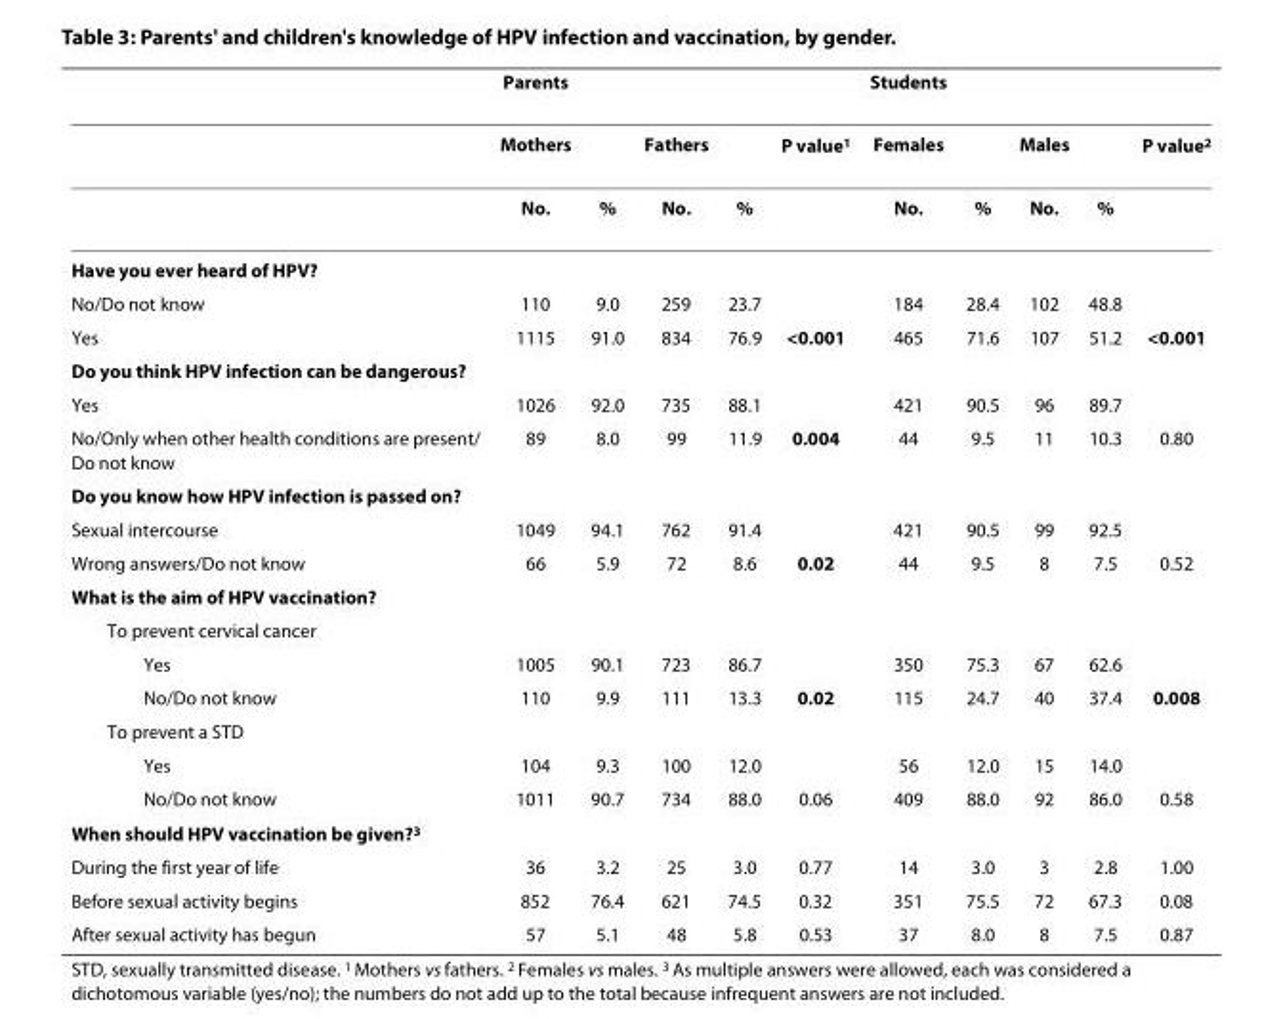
<table><thead><tr><td></td><td>Parents</td><td></td><td></td><td></td><td></td><td>Students</td><td></td><td></td><td></td><td></td></tr></thead><tbody><tr><td></td><td>Mothers</td><td></td><td>Fathers</td><td></td><td>P value<sup>1</sup></td><td>Females</td><td></td><td>Males</td><td></td><td>P value<sup>2</sup></td></tr><tr><td></td><td>No.</td><td>%</td><td>No.</td><td>%</td><td></td><td>No.</td><td>%</td><td>No.</td><td>%</td><td></td></tr><tr><td colspan="11">Have you ever heard of HPV?</td></tr><tr><td>No/Do not know</td><td>110</td><td>9.0</td><td>259</td><td>23.7</td><td></td><td>184</td><td>28.4</td><td>102</td><td>48.8</td><td></td></tr><tr><td>Yes</td><td>1115</td><td>91.0</td><td>834</td><td>76.9</td><td>&lt;0.001</td><td>465</td><td>71.6</td><td>107</td><td>51.2</td><td>&lt;0.001</td></tr><tr><td colspan="11">Do you think HPV infection can be dangerous?</td></tr><tr><td>Yes</td><td>1026</td><td>92.0</td><td>735</td><td>88.1</td><td></td><td>421</td><td>90.5</td><td>96</td><td>89.7</td><td></td></tr><tr><td>No/Only when other health conditions are present/ Do not know</td><td>89</td><td>8.0</td><td>99</td><td>11.9</td><td>0.004</td><td>44</td><td>9.5</td><td>11</td><td>10.3</td><td>0.80</td></tr><tr><td colspan="11">Do you know how HPV infection is passed on?</td></tr><tr><td>Sexual intercourse</td><td>1049</td><td>94.1</td><td>762</td><td>91.4</td><td></td><td>421</td><td>90.5</td><td>99</td><td>92.5</td><td></td></tr><tr><td>Wrong answers/Do not know</td><td>66</td><td>5.9</td><td>72</td><td>8.6</td><td>0.02</td><td>44</td><td>9.5</td><td>8</td><td>7.5</td><td>0.52</td></tr><tr><td colspan="11">What is the aim of HPV vaccination?</td></tr><tr><td colspan="11">To prevent cervical cancer</td></tr><tr><td>Yes</td><td>1005</td><td>90.1</td><td>723</td><td>86.7</td><td></td><td>350</td><td>75.3</td><td>67</td><td>62.6</td><td></td></tr><tr><td>No/Do not know</td><td>110</td><td>9.9</td><td>111</td><td>13.3</td><td>0.02</td><td>115</td><td>24.7</td><td>40</td><td>37.4</td><td>0.008</td></tr><tr><td colspan="11">To prevent a STD</td></tr><tr><td>Yes</td><td>104</td><td>9.3</td><td>100</td><td>12.0</td><td></td><td>56</td><td>12.0</td><td>15</td><td>14.0</td><td></td></tr><tr><td>No/Do not know</td><td>1011</td><td>90.7</td><td>734</td><td>88.0</td><td>0.06</td><td>409</td><td>88.0</td><td>92</td><td>86.0</td><td>0.58</td></tr><tr><td colspan="11">When should HPV vaccination be given?<sup>3</sup></td></tr><tr><td>During the first year of life</td><td>36</td><td>3.2</td><td>25</td><td>3.0</td><td>0.77</td><td>14</td><td>3.0</td><td>3</td><td>2.8</td><td>1.00</td></tr><tr><td>Before sexual activity begins</td><td>852</td><td>76.4</td><td>621</td><td>74.5</td><td>0.32</td><td>351</td><td>75.5</td><td>72</td><td>67.3</td><td>0.08</td></tr><tr><td>After sexual activity has begun</td><td>57</td><td>5.1</td><td>48</td><td>5.8</td><td>0.53</td><td>37</td><td>8.0</td><td>8</td><td>7.5</td><td>0.87</td></tr></tbody></table>